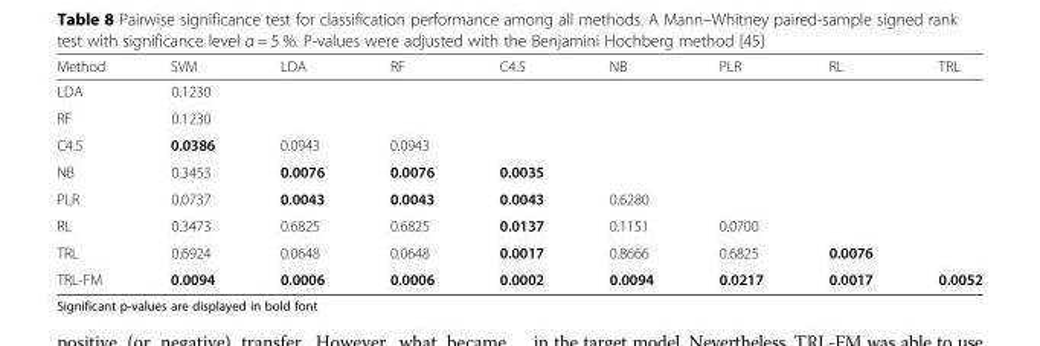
<table><thead><tr><td>Method</td><td>SVM</td><td>LDA</td><td>RF</td><td>C4.5</td><td>NB</td><td>PLR</td><td>RL</td><td>TRL</td></tr></thead><tbody><tr><td>LDA</td><td>0.1230</td><td></td><td></td><td></td><td></td><td></td><td></td><td></td></tr><tr><td>RF</td><td>0.1230</td><td></td><td></td><td></td><td></td><td></td><td></td><td></td></tr><tr><td>C4.5</td><td>0.0386</td><td>0.0943</td><td>0.0943</td><td></td><td></td><td></td><td></td><td></td></tr><tr><td>NB</td><td>0.3453</td><td>0.0076</td><td>0.0076</td><td>0.0035</td><td></td><td></td><td></td><td></td></tr><tr><td>PLR</td><td>0.0737</td><td>0.0043</td><td>0.0043</td><td>0.0043</td><td>0.6280</td><td></td><td></td><td></td></tr><tr><td>RL</td><td>0.3473</td><td>0.6825</td><td>0.6825</td><td>0.0137</td><td>0.1151</td><td>0.0700</td><td></td><td></td></tr><tr><td>TRL</td><td>0.6924</td><td>0.0648</td><td>0.0648</td><td>0.0017</td><td>0.8666</td><td>0.6825</td><td>0.0076</td><td></td></tr><tr><td>TRL-FM</td><td>0.0094</td><td>0.0006</td><td>0.0006</td><td>0.0002</td><td>0.0094</td><td>0.0217</td><td>0.0017</td><td>0.0052</td></tr></tbody></table>